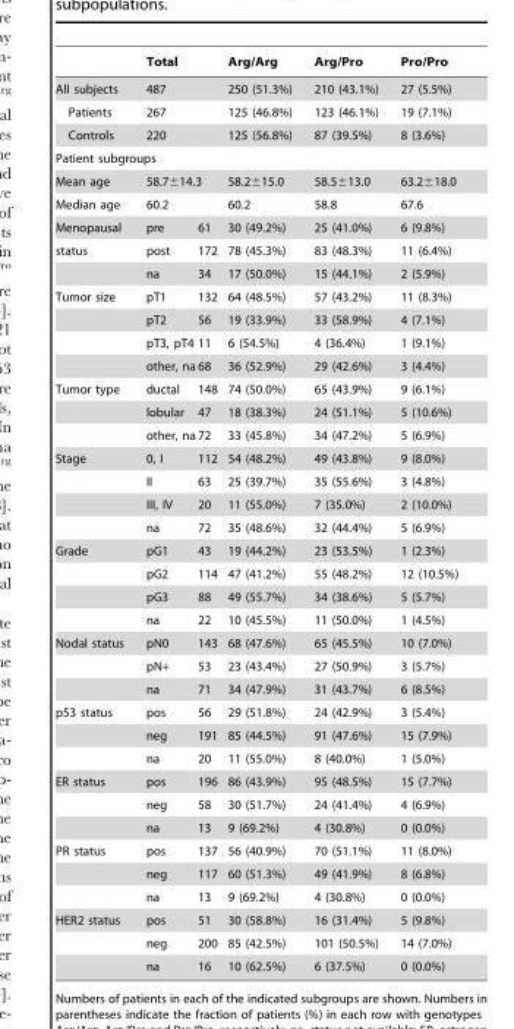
<table><thead><tr><td></td><td colspan="2">Total</td><td>Arg/Arg</td><td>Arg/Pro</td><td>Pro/Pro</td></tr></thead><tbody><tr><td>All subjects</td><td colspan="2">487</td><td>250 (51.3%)</td><td>210 (43.1%)</td><td>27 (5.5%)</td></tr><tr><td>Patients</td><td colspan="2">267</td><td>125 (46.8%)</td><td>123 (46.1%)</td><td>19 (7.1%)</td></tr><tr><td>Controls</td><td colspan="2">220</td><td>125 (56.8%)</td><td>87 (39.5%)</td><td>8 (3.6%)</td></tr><tr><td colspan="6">Patient subgroups</td></tr><tr><td>Mean age</td><td colspan="2">58.7±14.3</td><td>58.2±15.0</td><td>58.5±13.0</td><td>63.2±18.0</td></tr><tr><td>Median age</td><td colspan="2">60.2</td><td>60.2</td><td>58.8</td><td>67.6</td></tr><tr><td>Menopausal</td><td>pre</td><td>61</td><td>30 (49.2%)</td><td>25 (41.0%)</td><td>6 (9.8%)</td></tr><tr><td rowspan="2">status</td><td>post</td><td>172</td><td>78 (45.3%)</td><td>83 (48.3%)</td><td>11 (6.4%)</td></tr><tr><td>na</td><td>34</td><td>17 (50.0%)</td><td>15 (44.1%)</td><td>2 (5.9%)</td></tr><tr><td rowspan="4">Tumor size</td><td>pT1</td><td>132</td><td>64 (48.5%)</td><td>57 (43.2%)</td><td>11 (8.3%)</td></tr><tr><td>pT2</td><td>56</td><td>19 (33.9%)</td><td>33 (58.9%)</td><td>4 (7.1%)</td></tr><tr><td>pT3, pT4</td><td>11</td><td>6 (54.5%)</td><td>4 (36.4%)</td><td>1 (9.1%)</td></tr><tr><td>other, na</td><td>68</td><td>36 (52.9%)</td><td>29 (42.6%)</td><td>3 (4.4%)</td></tr><tr><td rowspan="3">Tumor type</td><td>ductal</td><td>148</td><td>74 (50.0%)</td><td>65 (43.9%)</td><td>9 (6.1%)</td></tr><tr><td>lobular</td><td>47</td><td>18 (38.3%)</td><td>24 (51.1%)</td><td>5 (10.6%)</td></tr><tr><td>other, na</td><td>72</td><td>33 (45.8%)</td><td>34 (47.2%)</td><td>5 (6.9%)</td></tr><tr><td rowspan="4">Stage</td><td>0, I</td><td>112</td><td>54 (48.2%)</td><td>49 (43.8%)</td><td>9 (8.0%)</td></tr><tr><td>II</td><td>63</td><td>25 (39.7%)</td><td>35 (55.6%)</td><td>3 (4.8%)</td></tr><tr><td>III, IV</td><td>20</td><td>11 (55.0%)</td><td>7 (35.0%)</td><td>2 (10.0%)</td></tr><tr><td>na</td><td>72</td><td>35 (48.6%)</td><td>32 (44.4%)</td><td>5 (6.9%)</td></tr><tr><td rowspan="4">Grade</td><td>pG1</td><td>43</td><td>19 (44.2%)</td><td>23 (53.5%)</td><td>1 (2.3%)</td></tr><tr><td>pG2</td><td>114</td><td>47 (41.2%)</td><td>55 (48.2%)</td><td>12 (10.5%)</td></tr><tr><td>pG3</td><td>88</td><td>49 (55.7%)</td><td>34 (38.6%)</td><td>5 (5.7%)</td></tr><tr><td>na</td><td>22</td><td>10 (45.5%)</td><td>11 (50.0%)</td><td>1 (4.5%)</td></tr><tr><td rowspan="3">Nodal status</td><td>pN0</td><td>143</td><td>68 (47.6%)</td><td>65 (45.5%)</td><td>10 (7.0%)</td></tr><tr><td>pN+</td><td>53</td><td>23 (43.4%)</td><td>27 (50.9%)</td><td>3 (5.7%)</td></tr><tr><td>na</td><td>71</td><td>34 (47.9%)</td><td>31 (43.7%)</td><td>6 (8.5%)</td></tr><tr><td rowspan="3">p53 status</td><td>pos</td><td>56</td><td>29 (51.8%)</td><td>24 (42.9%)</td><td>3 (5.4%)</td></tr><tr><td>neg</td><td>191</td><td>85 (44.5%)</td><td>91 (47.6%)</td><td>15 (7.9%)</td></tr><tr><td>na</td><td>20</td><td>11 (55.0%)</td><td>8 (40.0%)</td><td>1 (5.0%)</td></tr><tr><td rowspan="3">ER status</td><td>pos</td><td>196</td><td>86 (43.9%)</td><td>95 (48.5%)</td><td>15 (7.7%)</td></tr><tr><td>neg</td><td>58</td><td>30 (51.7%)</td><td>24 (41.4%)</td><td>4 (6.9%)</td></tr><tr><td>na</td><td>13</td><td>9 (69.2%)</td><td>4 (30.8%)</td><td>0 (0.0%)</td></tr><tr><td rowspan="3">PR status</td><td>pos</td><td>137</td><td>56 (40.9%)</td><td>70 (51.1%)</td><td>11 (8.0%)</td></tr><tr><td>neg</td><td>117</td><td>60 (51.3%)</td><td>49 (41.9%)</td><td>8 (6.8%)</td></tr><tr><td>na</td><td>13</td><td>9 (69.2%)</td><td>4 (30.8%)</td><td>0 (0.0%)</td></tr><tr><td rowspan="3">HER2 status</td><td>pos</td><td>51</td><td>30 (58.8%)</td><td>16 (31.4%)</td><td>5 (9.8%)</td></tr><tr><td>neg</td><td>200</td><td>85 (42.5%)</td><td>101 (50.5%)</td><td>14 (7.0%)</td></tr><tr><td>na</td><td>16</td><td>10 (62.5%)</td><td>6 (37.5%)</td><td>0 (0.0%)</td></tr></tbody></table>